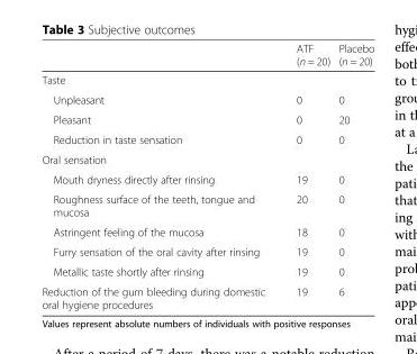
<table><thead><tr><td></td><td>ATF (n = 20)</td><td>Placebo (n = 20)</td></tr></thead><tbody><tr><td colspan="3">Taste</td></tr><tr><td>Unpleasant</td><td>0</td><td>0</td></tr><tr><td>Pleasant</td><td>0</td><td>20</td></tr><tr><td>Reduction in taste sensation</td><td>0</td><td>0</td></tr><tr><td colspan="3">Oral sensation</td></tr><tr><td>Mouth dryness directly after rinsing</td><td>19</td><td>0</td></tr><tr><td>Roughness surface of the teeth, tongue and mucosa</td><td>20</td><td>0</td></tr><tr><td>Astringent feeling of the mucosa</td><td>18</td><td>0</td></tr><tr><td>Furry sensation of the oral cavity after rinsing</td><td>19</td><td>0</td></tr><tr><td>Metallic taste shortly after rinsing</td><td>19</td><td>0</td></tr><tr><td>Reduction of the gum bleeding during domestic oral hygiene procedures</td><td>19</td><td>6</td></tr></tbody></table>